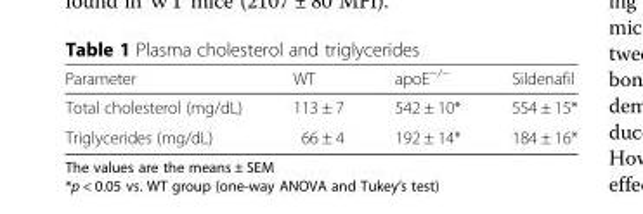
<table><thead><tr><td>Parameter</td><td>WT</td><td>apoE<sup>−/−</sup></td><td>Sildenafil</td></tr></thead><tbody><tr><td>Total cholesterol (mg/dL)</td><td>113 ± 7</td><td>542 ± 10*</td><td>554 ± 15*</td></tr><tr><td>Triglycerides (mg/dL)</td><td>66 ± 4</td><td>192 ± 14*</td><td>184 ± 16*</td></tr></tbody></table>